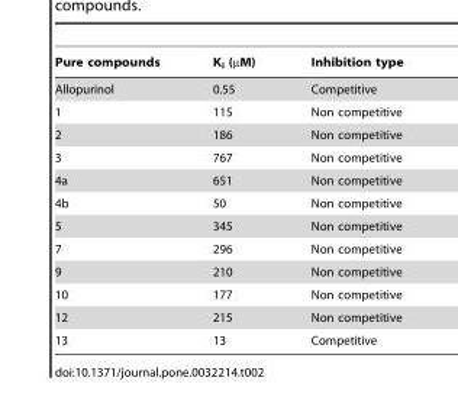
<table><thead><tr><td>Pure compounds</td><td>K<sub>i</sub> (µM)</td><td>Inhibition type</td></tr></thead><tbody><tr><td>Allopurinol</td><td>0.55</td><td>Competitive</td></tr><tr><td>1</td><td>115</td><td>Non competitive</td></tr><tr><td>2</td><td>186</td><td>Non competitive</td></tr><tr><td>3</td><td>767</td><td>Non competitive</td></tr><tr><td>4a</td><td>651</td><td>Non competitive</td></tr><tr><td>4b</td><td>50</td><td>Non competitive</td></tr><tr><td>5</td><td>345</td><td>Non competitive</td></tr><tr><td>7</td><td>296</td><td>Non competitive</td></tr><tr><td>9</td><td>210</td><td>Non competitive</td></tr><tr><td>10</td><td>177</td><td>Non competitive</td></tr><tr><td>12</td><td>215</td><td>Non competitive</td></tr><tr><td>13</td><td>13</td><td>Competitive</td></tr></tbody></table>